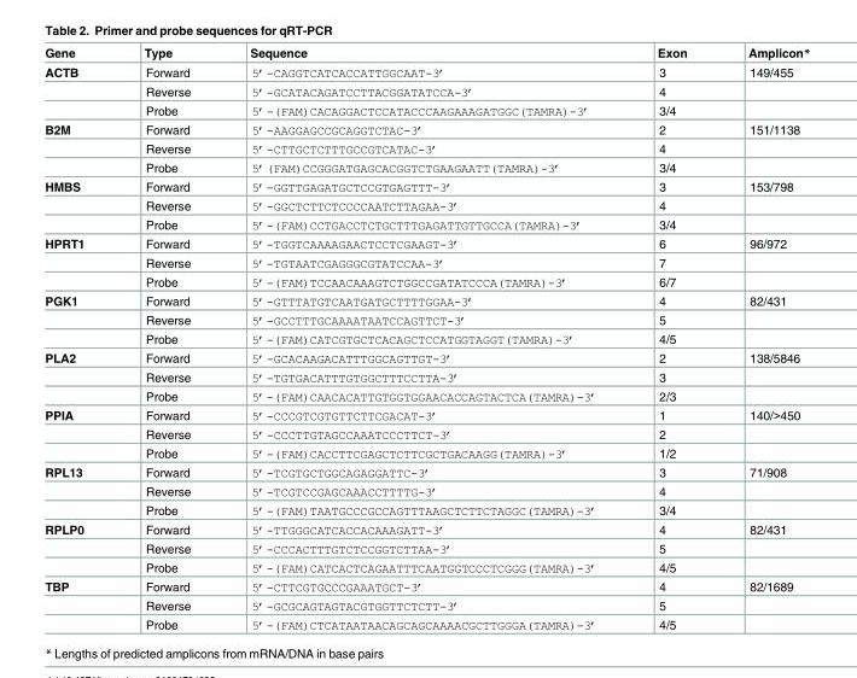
<table><thead><tr><td>Gene</td><td>Type</td><td>Sequence</td><td>Exon</td><td>Amplicon*</td></tr></thead><tbody><tr><td rowspan="3">ACTB</td><td>Forward</td><td>5’-CAGGTCATCACCATTGGCAAT-3’</td><td>3</td><td>149/455</td></tr><tr><td>Reverse</td><td>5’-GCATACAGATCCTTACGGATATCCA-3’</td><td>4</td><td></td></tr><tr><td>Probe</td><td>5’-(FAM)CACAGGACTCCATACCCAAGAAAGATGGC(TAMRA)-3’</td><td>3/4</td><td></td></tr><tr><td rowspan="3">B2M</td><td>Forward</td><td>5’-AAGGAGCCGCAGGTCTAC-3’</td><td>2</td><td>151/1138</td></tr><tr><td>Reverse</td><td>5’-CTTGCTCTTTGCCGTCATAC-3’</td><td>4</td><td></td></tr><tr><td>Probe</td><td>5’(FAM)CCGGGATGAGCACGGTCTGAAGAATT(TAMRA)-3’</td><td>3/4</td><td></td></tr><tr><td rowspan="3">HMBS</td><td>Forward</td><td>5’-GGTTGAGATGCTCCGTGAGTTT-3’</td><td>3</td><td>153/798</td></tr><tr><td>Reverse</td><td>5’-GGCTCTTCTCCCCAATCTTAGAA-3’</td><td>4</td><td></td></tr><tr><td>Probe</td><td>5’-(FAM)CCTGACCTCTGCTTTGAGATTGTTGCCA(TAMRA)-3’</td><td>3/4</td><td></td></tr><tr><td rowspan="3">HPRT1</td><td>Forward</td><td>5’-TGGTCAAAAGAACTCCTCGAAGT-3’</td><td>6</td><td>96/972</td></tr><tr><td>Reverse</td><td>5’-TGTAATCGAGGGCGTATCCAA-3’</td><td>7</td><td></td></tr><tr><td>Probe</td><td>5’-(FAM)TCCAACAAAGTCTGGCCGATATCCCA(TAMRA)-3’</td><td>6/7</td><td></td></tr><tr><td rowspan="3">PGK1</td><td>Forward</td><td>5’-GTTTATGTCAATGATGCTTTTGGAA-3’</td><td>4</td><td>82/431</td></tr><tr><td>Reverse</td><td>5’-GCCTTTGCAAAATAATCCAGTTCT-3’</td><td>5</td><td></td></tr><tr><td>Probe</td><td>5’-(FAM)CATCGTGCTCACAGCTCCATGGTAGGT(TAMRA)-3’</td><td>4/5</td><td></td></tr><tr><td rowspan="3">PLA2</td><td>Forward</td><td>5’-GCACAAGACATTTGGCAGTTGT-3’</td><td>2</td><td>138/5846</td></tr><tr><td>Reverse</td><td>5’-TGTGACATTTGTGGCTTTCCTTA-3’</td><td>3</td><td></td></tr><tr><td>Probe</td><td>5’-(FAM)CAACACATTGTGGTGGAACACCAGTACTCA(TAMRA)-3’</td><td>2/3</td><td></td></tr><tr><td rowspan="3">PPIA</td><td>Forward</td><td>5’-CCCGTCGTGTTCTTCGACAT-3’</td><td>1</td><td>140/&gt;450</td></tr><tr><td>Reverse</td><td>5’-CCCTTGTAGCCAAATCCCTTCT-3’</td><td>2</td><td></td></tr><tr><td>Probe</td><td>5’-(FAM)CACCTTCGAGCTCTTCGCTGACAAGG(TAMRA)-3’</td><td>1/2</td><td></td></tr><tr><td rowspan="3">RPL13</td><td>Forward</td><td>5’-TCGTGCTGGCAGAGGATTC-3’</td><td>3</td><td>71/908</td></tr><tr><td>Reverse</td><td>5’-TCGTCCGAGCAAACCTTTTG-3’</td><td>4</td><td></td></tr><tr><td>Probe</td><td>5’-(FAM)TAATGCCCGCCAGTTTAAGCTCTTCTAGGC(TAMRA)-3’</td><td>3/4</td><td></td></tr><tr><td rowspan="3">RPLP0</td><td>Forward</td><td>5’-TTGGGCATCACCACAAAGATT-3’</td><td>4</td><td>82/431</td></tr><tr><td>Reverse</td><td>5’-CCCACTTTGTCTCCGGTCTTAA-3’</td><td>5</td><td></td></tr><tr><td>Probe</td><td>5’-(FAM)CATCACTCAGAATTTCAATGGTCCCTCGGG(TAMRA)-3’</td><td>4/5</td><td></td></tr><tr><td rowspan="3">TBP</td><td>Forward</td><td>5’-CTTCGTGCCCGAAATGCT-3’</td><td>4</td><td>82/1689</td></tr><tr><td>Reverse</td><td>5’-GCGCAGTAGTACGTGGTTCTCTT-3’</td><td>5</td><td></td></tr><tr><td>Probe</td><td>5’-(FAM)CTCATAATAACAGCAGCAAAACGCTTGGGA(TAMRA)-3’</td><td>4/5</td><td></td></tr></tbody></table>